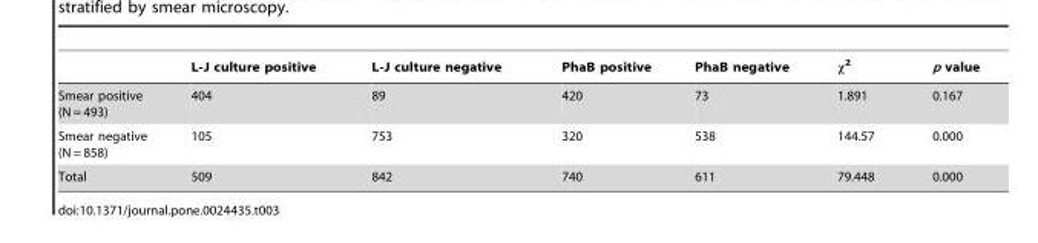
<table><thead><tr><td></td><td>L-J culture positive</td><td>L-J culture negative</td><td>PhaB positive</td><td>PhaB negative</td><td>χ<sup>2</sup></td><td>p value</td></tr></thead><tbody><tr><td>Smear positive (N = 493)</td><td>404</td><td>89</td><td>420</td><td>73</td><td>1.891</td><td>0.167</td></tr><tr><td>Smear negative (N = 858)</td><td>105</td><td>753</td><td>320</td><td>538</td><td>144.57</td><td>0.000</td></tr><tr><td>Total</td><td>509</td><td>842</td><td>740</td><td>611</td><td>79.448</td><td>0.000</td></tr></tbody></table>